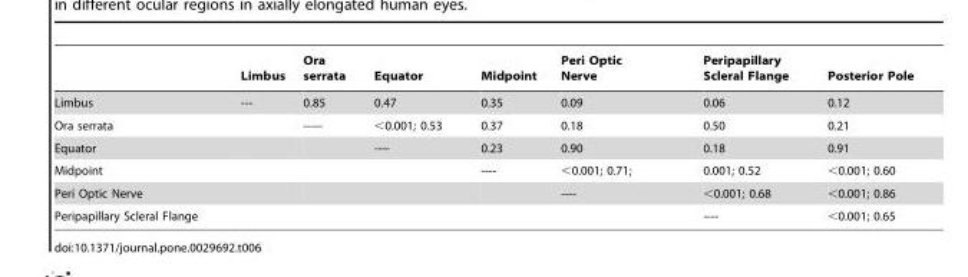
<table><thead><tr><td></td><td>Limbus</td><td>Ora serrata</td><td>Equator</td><td>Midpoint</td><td>Peri Optic Nerve</td><td>Peripapillary Scleral Flange</td><td>Posterior Pole</td></tr></thead><tbody><tr><td>Limbus</td><td>---</td><td>0.85</td><td>0.47</td><td>0.35</td><td>0.09</td><td>0.06</td><td>0.12</td></tr><tr><td>Ora serrata</td><td></td><td>-----</td><td>&lt;0.001; 0.53</td><td>0.37</td><td>0.18</td><td>0.50</td><td>0.21</td></tr><tr><td>Equator</td><td></td><td></td><td>----</td><td>0.23</td><td>0.90</td><td>0.18</td><td>0.91</td></tr><tr><td>Midpoint</td><td></td><td></td><td></td><td>----</td><td>&lt;0.001; 0.71;</td><td>0.001; 0.52</td><td>&lt;0.001; 0.60</td></tr><tr><td>Peri Optic Nerve</td><td></td><td></td><td></td><td></td><td>----</td><td>&lt;0.001; 0.68</td><td>&lt;0.001; 0.86</td></tr><tr><td>Peripapillary Scleral Flange</td><td></td><td></td><td></td><td></td><td></td><td>----</td><td>&lt;0.001; 0.65</td></tr></tbody></table>